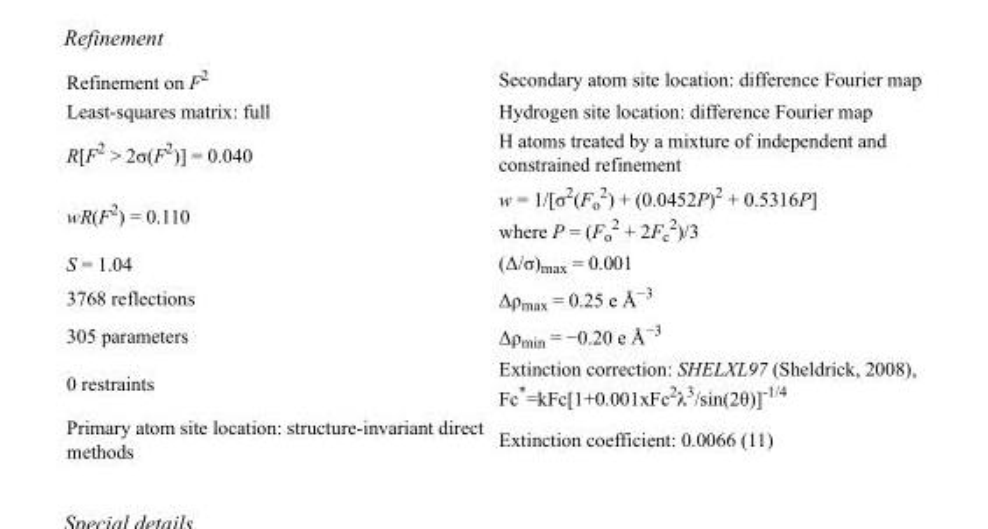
<table><tbody><tr><td>Refinement on F<sup>2</sup></td><td>Secondary atom site location: difference Fourier map</td></tr><tr><td>Least-squares matrix: full</td><td>Hydrogen site location: difference Fourier map</td></tr><tr><td>R[F<sup>2</sup> &gt; 2σ(F<sup>2</sup>)] = 0.040</td><td>H atoms treated by a mixture of independent and constrained refinement</td></tr><tr><td>wR(F<sup>2</sup>) = 0.110</td><td>w = 1/[σ<sup>2</sup>(F<sub>o</sub> <sup>2</sup>) + (0.0452P)<sup>2</sup> + 0.5316P] where P = (F<sub>o</sub> <sup>2</sup> + 2F<sub>c</sub> <sup>2</sup>)/3</td></tr><tr><td>S = 1.04</td><td>(Δ/σ)<sub>max</sub> = 0.001</td></tr><tr><td>3768 reflections</td><td>Δρ<sub>max</sub> = 0.25 e Å<sup>−3</sup></td></tr><tr><td>305 parameters</td><td>Δρ<sub>min</sub> = −0.20 e Å<sup>−3</sup></td></tr><tr><td>0 restraints</td><td>Extinction correction: SHELXL97 (Sheldrick, 2008), Fc*=kFc[1+0.001xFc<sup>2</sup>λ<sup>3</sup>/sin(2θ)]<sup>-1/4</sup></td></tr><tr><td>Primary atom site location: structure-invariant direct methods</td><td>Extinction coefficient: 0.0066 (11)</td></tr></tbody></table>